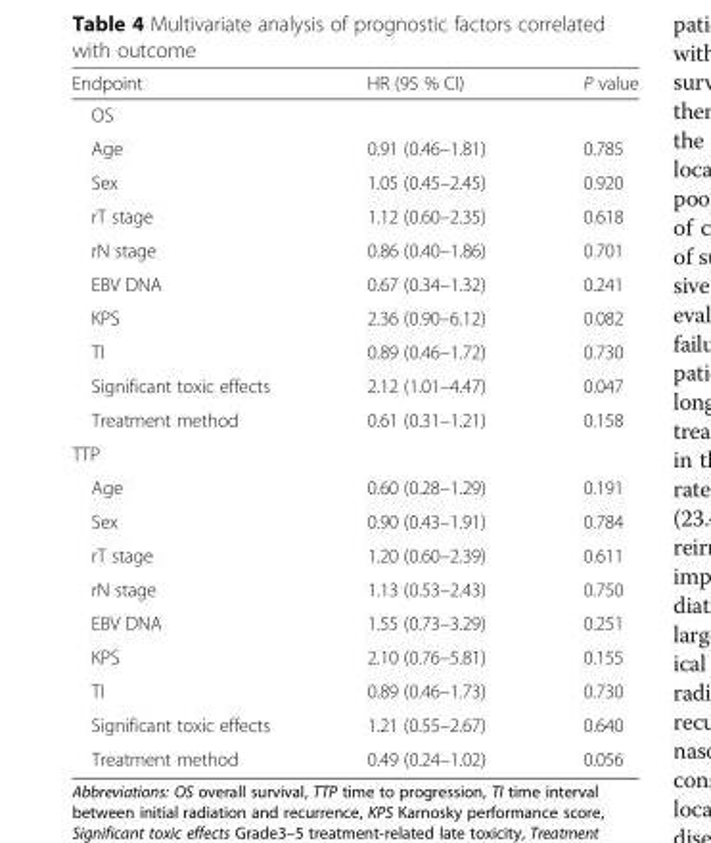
<table><thead><tr><td>Endpoint</td><td>HR (95 % CI)</td><td>P value</td></tr></thead><tbody><tr><td colspan="3">OS</td></tr><tr><td>Age</td><td>0.91 (0.46–1.81)</td><td>0.785</td></tr><tr><td>Sex</td><td>1.05 (0.45–2.45)</td><td>0.920</td></tr><tr><td>rT stage</td><td>1.12 (0.60–2.35)</td><td>0.618</td></tr><tr><td>rN stage</td><td>0.86 (0.40–1.86)</td><td>0.701</td></tr><tr><td>EBV DNA</td><td>0.67 (0.34–1.32)</td><td>0.241</td></tr><tr><td>KPS</td><td>2.36 (0.90–6.12)</td><td>0.082</td></tr><tr><td>TI</td><td>0.89 (0.46–1.72)</td><td>0.730</td></tr><tr><td>Significant toxic effects</td><td>2.12 (1.01–4.47)</td><td>0.047</td></tr><tr><td>Treatment method</td><td>0.61 (0.31–1.21)</td><td>0.158</td></tr><tr><td colspan="3">TTP</td></tr><tr><td>Age</td><td>0.60 (0.28–1.29)</td><td>0.191</td></tr><tr><td>Sex</td><td>0.90 (0.43–1.91)</td><td>0.784</td></tr><tr><td>rT stage</td><td>1.20 (0.60–2.39)</td><td>0.611</td></tr><tr><td>rN stage</td><td>1.13 (0.53–2.43)</td><td>0.750</td></tr><tr><td>EBV DNA</td><td>1.55 (0.73–3.29)</td><td>0.251</td></tr><tr><td>KPS</td><td>2.10 (0.76–5.81)</td><td>0.155</td></tr><tr><td>TI</td><td>0.89 (0.46–1.73)</td><td>0.730</td></tr><tr><td>Significant toxic effects</td><td>1.21 (0.55–2.67)</td><td>0.640</td></tr><tr><td>Treatment method</td><td>0.49 (0.24–1.02)</td><td>0.056</td></tr></tbody></table>